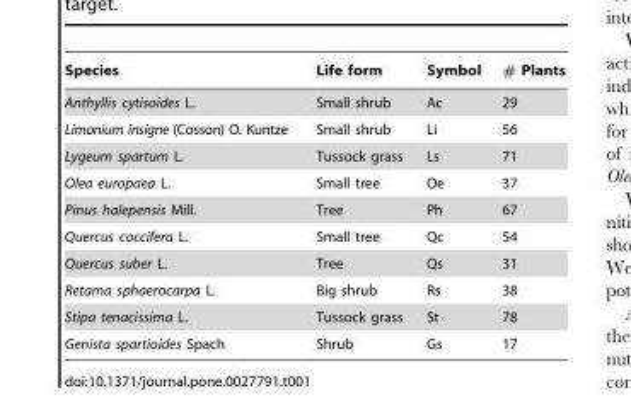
<table><thead><tr><td>Species</td><td>Life form</td><td>Symbol</td><td># Plants</td></tr></thead><tbody><tr><td>Anthyllis cytisoides L.</td><td>Small shrub</td><td>Ac</td><td>29</td></tr><tr><td>Limonium insigne (Cosson) O. Kuntze</td><td>Small shrub</td><td>Li</td><td>56</td></tr><tr><td>Lygeum spartum L.</td><td>Tussock grass</td><td>Ls</td><td>71</td></tr><tr><td>Olea europaea L.</td><td>Small tree</td><td>Oe</td><td>37</td></tr><tr><td>Pinus halepensis Mill.</td><td>Tree</td><td>Ph</td><td>67</td></tr><tr><td>Quercus coccifera L.</td><td>Small tree</td><td>Qc</td><td>54</td></tr><tr><td>Quercus suber L.</td><td>Tree</td><td>Qs</td><td>31</td></tr><tr><td>Retama sphaerocarpa L.</td><td>Big shrub</td><td>Rs</td><td>38</td></tr><tr><td>Stipa tenacissima L.</td><td>Tussock grass</td><td>St</td><td>78</td></tr><tr><td>Genista spartioides Spach</td><td>Shrub</td><td>Gs</td><td>17</td></tr></tbody></table>